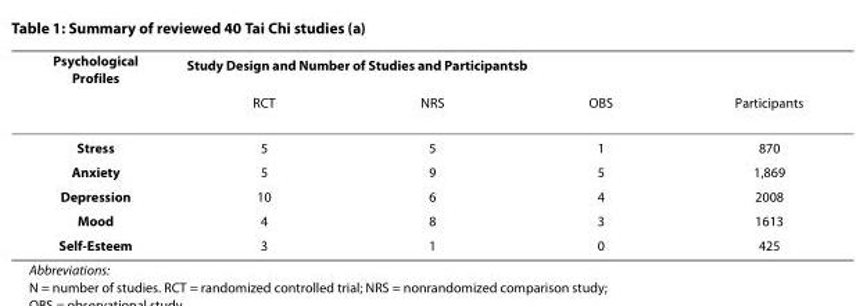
<table><thead><tr><td rowspan="2">Psychological Profiles</td><td colspan="4">Study Design and Number of Studies and Participants<sup>b</sup></td></tr><tr><td>RCT</td><td>NRS</td><td>OBS</td><td>Participants</td></tr></thead><tbody><tr><td>Stress</td><td>5</td><td>5</td><td>1</td><td>870</td></tr><tr><td>Anxiety</td><td>5</td><td>9</td><td>5</td><td>1,869</td></tr><tr><td>Depression</td><td>10</td><td>6</td><td>4</td><td>2008</td></tr><tr><td>Mood</td><td>4</td><td>8</td><td>3</td><td>1613</td></tr><tr><td>Self-Esteem</td><td>3</td><td>1</td><td>0</td><td>425</td></tr></tbody></table>